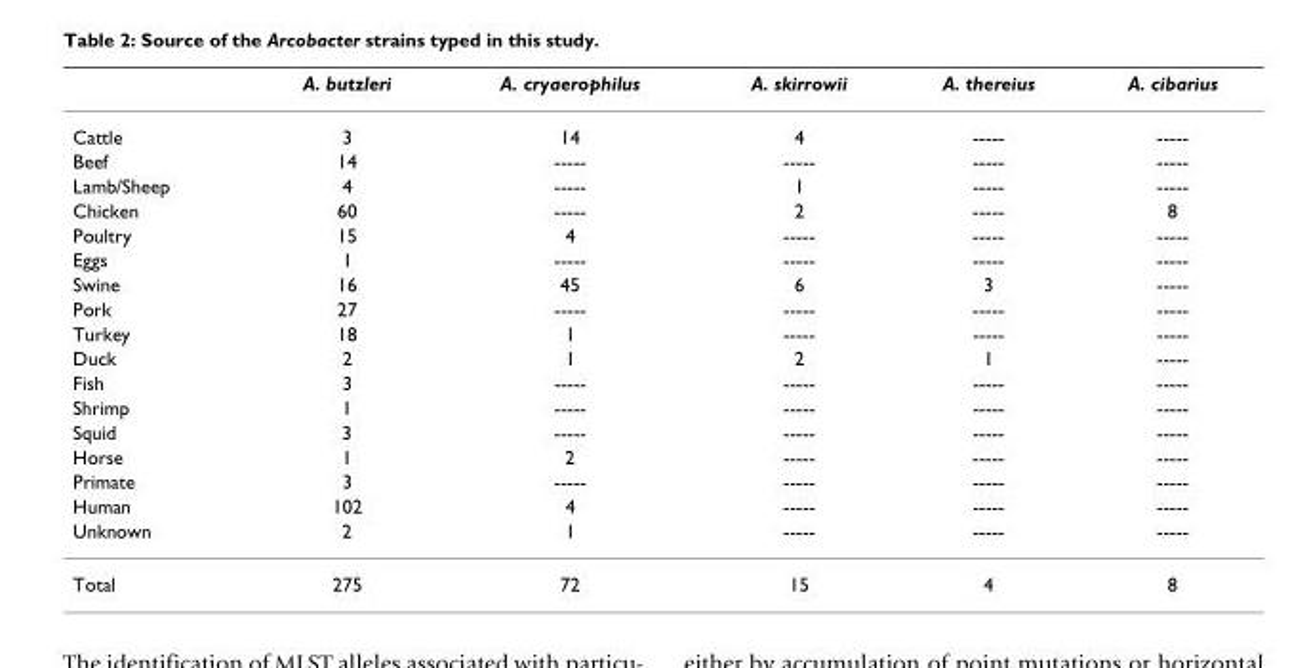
<table><thead><tr><td></td><td>A. butzleri</td><td>A. cryaerophilus</td><td>A. skirrowii</td><td>A. thereius</td><td>A. cibarius</td></tr></thead><tbody><tr><td>Cattle</td><td>3</td><td>14</td><td>4</td><td>-----</td><td>-----</td></tr><tr><td>Beef</td><td>14</td><td>-----</td><td>-----</td><td>-----</td><td>-----</td></tr><tr><td>Lamb/Sheep</td><td>4</td><td>-----</td><td>1</td><td>-----</td><td>-----</td></tr><tr><td>Chicken</td><td>60</td><td>-----</td><td>2</td><td>-----</td><td>8</td></tr><tr><td>Poultry</td><td>15</td><td>4</td><td>-----</td><td>-----</td><td>-----</td></tr><tr><td>Eggs</td><td>1</td><td>-----</td><td>-----</td><td>-----</td><td>-----</td></tr><tr><td>Swine</td><td>16</td><td>45</td><td>6</td><td>3</td><td>-----</td></tr><tr><td>Pork</td><td>27</td><td>-----</td><td>-----</td><td>-----</td><td>-----</td></tr><tr><td>Turkey</td><td>18</td><td>1</td><td>-----</td><td>-----</td><td>-----</td></tr><tr><td>Duck</td><td>2</td><td>1</td><td>2</td><td>1</td><td>-----</td></tr><tr><td>Fish</td><td>3</td><td>-----</td><td>-----</td><td>-----</td><td>-----</td></tr><tr><td>Shrimp</td><td>1</td><td>-----</td><td>-----</td><td>-----</td><td>-----</td></tr><tr><td>Squid</td><td>3</td><td>-----</td><td>-----</td><td>-----</td><td>-----</td></tr><tr><td>Horse</td><td>1</td><td>2</td><td>-----</td><td>-----</td><td>-----</td></tr><tr><td>Primate</td><td>3</td><td>-----</td><td>-----</td><td>-----</td><td>-----</td></tr><tr><td>Human</td><td>102</td><td>4</td><td>-----</td><td>-----</td><td>-----</td></tr><tr><td>Unknown</td><td>2</td><td>1</td><td>-----</td><td>-----</td><td>-----</td></tr><tr><td>Total</td><td>275</td><td>72</td><td>15</td><td>4</td><td>8</td></tr></tbody></table>